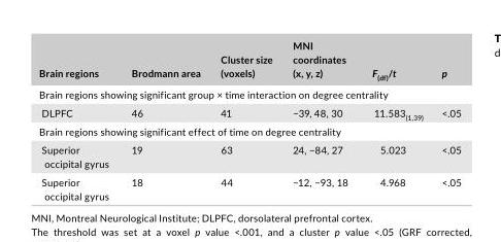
<table><thead><tr><td>Brain regions</td><td>Brodmann area</td><td>Cluster size (voxels)</td><td>MNI coordinates (x, y, z)</td><td>F<sub>(df)</sub>/t</td><td>p</td></tr></thead><tbody><tr><td colspan="6">Brain regions showing significant group × time interaction on degree centrality</td></tr><tr><td>DLPFC</td><td>46</td><td>41</td><td>−39, 48, 30</td><td>11.583<sub>(1,39)</sub></td><td>&lt;.05</td></tr><tr><td colspan="6">Brain regions showing significant effect of time on degree centrality</td></tr><tr><td>Superior occipital gyrus</td><td>19</td><td>63</td><td>24, −84, 27</td><td>5.023</td><td>&lt;.05</td></tr><tr><td>Superior occipital gyrus</td><td>18</td><td>44</td><td>−12, −93, 18</td><td>4.968</td><td>&lt;.05</td></tr></tbody></table>